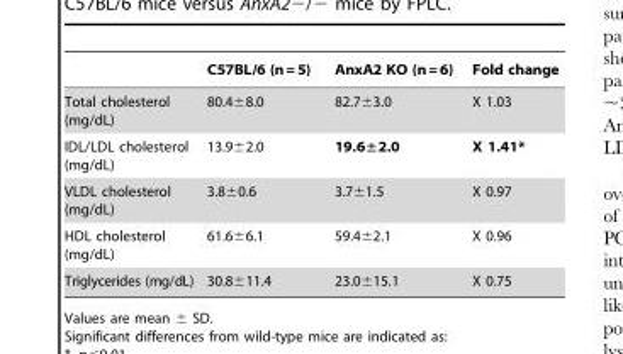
<table><thead><tr><td></td><td>C57BL/6 (n = 5)</td><td>AnxA2 KO (n= 6)</td><td>Fold change</td></tr></thead><tbody><tr><td>Total cholesterol (mg/dL)</td><td>80.4±8.0</td><td>82.7±3.0</td><td>X 1.03</td></tr><tr><td>IDL/LDL cholesterol (mg/dL)</td><td>13.9±2.0</td><td>19.6±2.0</td><td>X 1.41*</td></tr><tr><td>VLDL cholesterol (mg/dL)</td><td>3.8±0.6</td><td>3.7±1.5</td><td>X 0.97</td></tr><tr><td>HDL cholesterol (mg/dL)</td><td>61.6±6.1</td><td>59.4±2.1</td><td>X 0.96</td></tr><tr><td>Triglycerides (mg/dL)</td><td>30.8±11.4</td><td>23.0±15.1</td><td>X 0.75</td></tr></tbody></table>